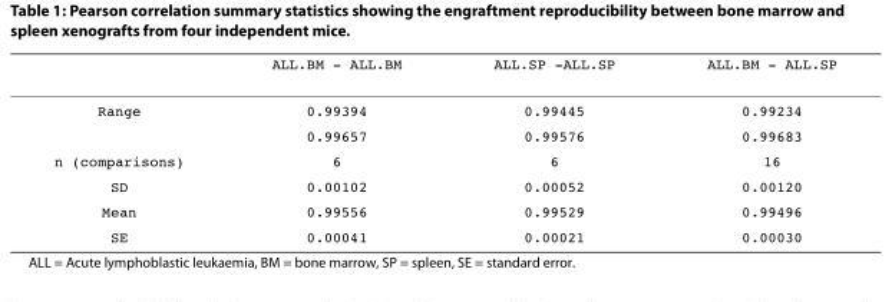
<table><thead><tr><td></td><td>ALL.BM - ALL.BM</td><td>ALL.SP -ALL.SP</td><td>ALL.BM - ALL.SP</td></tr></thead><tbody><tr><td rowspan="2">Range</td><td>0.99394</td><td>0.99445</td><td>0.99234</td></tr><tr><td>0.99657</td><td>0.99576</td><td>0.99683</td></tr><tr><td>n (comparisons)</td><td>6</td><td>6</td><td>16</td></tr><tr><td>SD</td><td>0.00102</td><td>0.00052</td><td>0.00120</td></tr><tr><td>Mean</td><td>0.99556</td><td>0.99529</td><td>0.99496</td></tr><tr><td>SE</td><td>0.00041</td><td>0.00021</td><td>0.00030</td></tr></tbody></table>